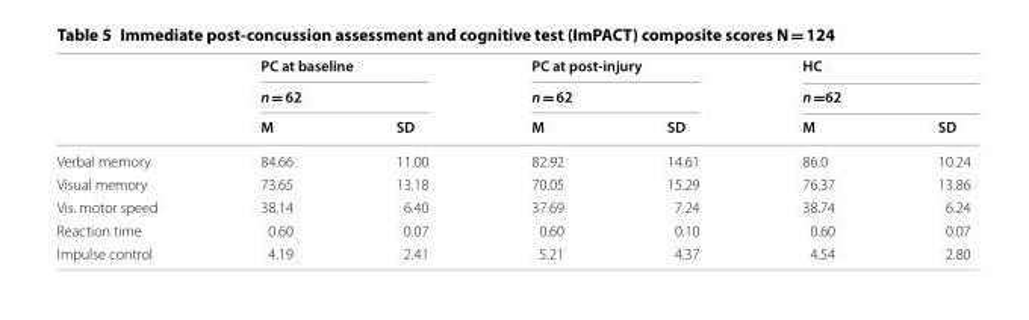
<table><thead><tr><td rowspan="3"></td><td rowspan="2" colspan="2">PC at baseline n = 62</td><td rowspan="2" colspan="2">PC at post-injury n = 62</td><td rowspan="2" colspan="2">HC n =62</td></tr><tr></tr><tr><td>M</td><td>SD</td><td>M</td><td>SD</td><td>M</td><td>SD</td></tr></thead><tbody><tr><td>Verbal memory</td><td>84.66</td><td>11.00</td><td>82.92</td><td>14.61</td><td>86.0</td><td>10.24</td></tr><tr><td>Visual memory</td><td>73.65</td><td>13.18</td><td>70.05</td><td>15.29</td><td>76.37</td><td>13.86</td></tr><tr><td>Vis. motor speed</td><td>38.14</td><td>6.40</td><td>37.69</td><td>7.24</td><td>38.74</td><td>6.24</td></tr><tr><td>Reaction time</td><td>0.60</td><td>0.07</td><td>0.60</td><td>0.10</td><td>0.60</td><td>0.07</td></tr><tr><td>Impulse control</td><td>4.19</td><td>2.41</td><td>5.21</td><td>4.37</td><td>4.54</td><td>2.80</td></tr></tbody></table>